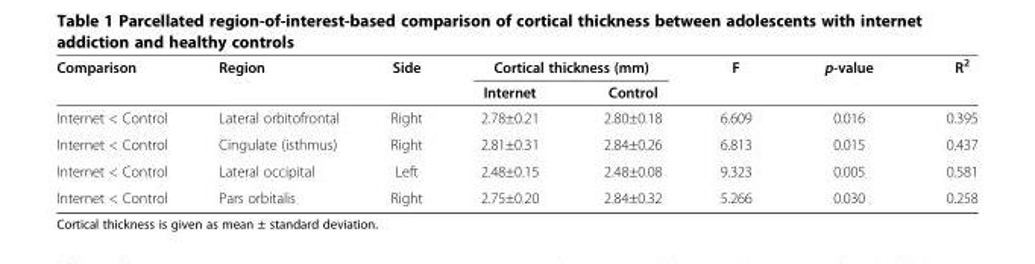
<table><thead><tr><td rowspan="2">Comparison</td><td rowspan="2">Region</td><td rowspan="2">Side</td><td colspan="2">Cortical thickness (mm)</td><td rowspan="2">F</td><td rowspan="2">p-value</td><td rowspan="2">R<sup>2</sup></td></tr><tr><td>Internet</td><td>Control</td></tr></thead><tbody><tr><td>Internet &lt; Control</td><td>Lateral orbitofrontal</td><td>Right</td><td>2.78±0.21</td><td>2.80±0.18</td><td>6.609</td><td>0.016</td><td>0.395</td></tr><tr><td>Internet &lt; Control</td><td>Cingulate (isthmus)</td><td>Right</td><td>2.81±0.31</td><td>2.84±0.26</td><td>6.813</td><td>0.015</td><td>0.437</td></tr><tr><td>Internet &lt; Control</td><td>Lateral occipital</td><td>Left</td><td>2.48±0.15</td><td>2.48±0.08</td><td>9.323</td><td>0.005</td><td>0.581</td></tr><tr><td>Internet &lt; Control</td><td>Pars orbitalis</td><td>Right</td><td>2.75±0.20</td><td>2.84±0.32</td><td>5.266</td><td>0.030</td><td>0.258</td></tr></tbody></table>